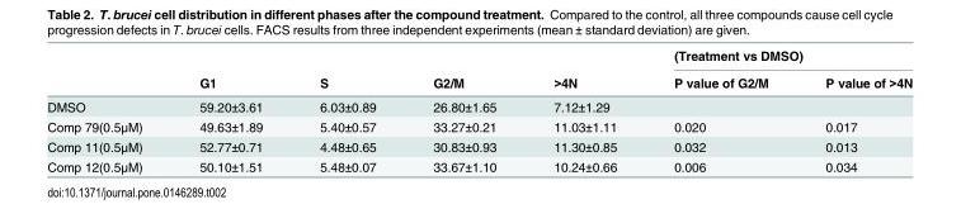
<table><thead><tr><td rowspan="2"></td><td rowspan="2">G1</td><td rowspan="2">S</td><td rowspan="2">G2/M</td><td rowspan="2">&gt;4N</td><td colspan="2">(Treatment vs DMSO)</td></tr><tr><td>P value of G2/M</td><td>P value of &gt;4N</td></tr></thead><tbody><tr><td>DMSO</td><td>59.20±3.61</td><td>6.03±0.89</td><td>26.80±1.65</td><td>7.12±1.29</td><td></td><td></td></tr><tr><td>Comp 79(0.5μM)</td><td>49.63±1.89</td><td>5.40±0.57</td><td>33.27±0.21</td><td>11.03±1.11</td><td>0.020</td><td>0.017</td></tr><tr><td>Comp 11(0.5μM)</td><td>52.77±0.71</td><td>4.48±0.65</td><td>30.83±0.93</td><td>11.30±0.85</td><td>0.032</td><td>0.013</td></tr><tr><td>Comp 12(0.5μM)</td><td>50.10±1.51</td><td>5.48±0.07</td><td>33.67±1.10</td><td>10.24±0.66</td><td>0.006</td><td>0.034</td></tr></tbody></table>